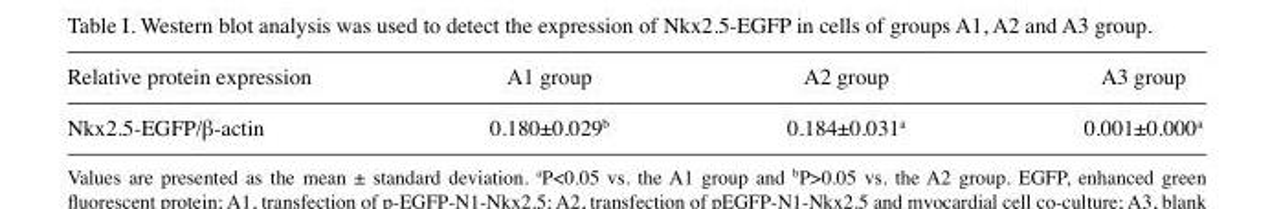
<table><thead><tr><td>Relative protein expression</td><td>A1 group</td><td>A2 group</td><td>A3 group</td></tr></thead><tbody><tr><td>Nkx2.5-EGFP/β‑actin</td><td>0.180±0.029<sup>b</sup></td><td>0.184±0.031<sup>a</sup></td><td>0.001±0.000<sup>a</sup></td></tr></tbody></table>